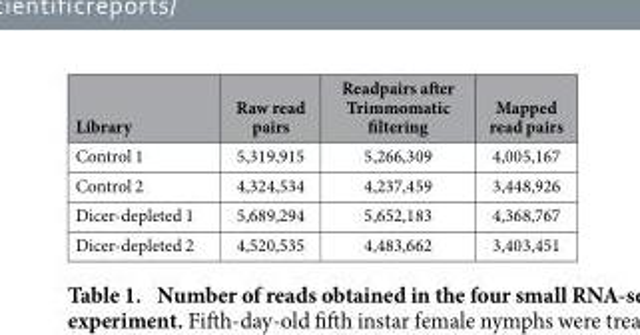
<table><thead><tr><td>Library</td><td>Raw read pairs</td><td>Readpairs after Trimmomatic filtering</td><td>Mapped read pairs</td></tr></thead><tbody><tr><td>Control 1</td><td>5,319,915</td><td>5,266,309</td><td>4,005,167</td></tr><tr><td>Control 2</td><td>4,324,534</td><td>4,237,459</td><td>3,448,926</td></tr><tr><td>Dicer-depleted 1</td><td>5,689,294</td><td>5,652,183</td><td>4,368,767</td></tr><tr><td>Dicer-depleted 2</td><td>4,520,535</td><td>4,483,662</td><td>3,403,451</td></tr></tbody></table>